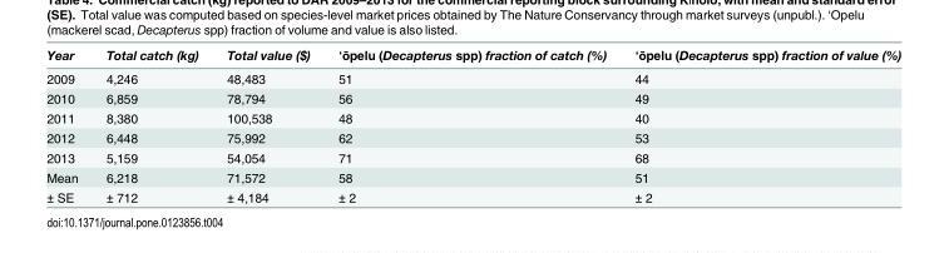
<table><thead><tr><td>Year</td><td>Total catch (kg)</td><td>Total value ($)</td><td>‘ōpelu (Decapterus spp) fraction of catch (%)</td><td>‘ōpelu (Decapterus spp) fraction of value (%)</td></tr></thead><tbody><tr><td>2009</td><td>4,246</td><td>48,483</td><td>51</td><td>44</td></tr><tr><td>2010</td><td>6,859</td><td>78,794</td><td>56</td><td>49</td></tr><tr><td>2011</td><td>8,380</td><td>100,538</td><td>48</td><td>40</td></tr><tr><td>2012</td><td>6,448</td><td>75,992</td><td>62</td><td>53</td></tr><tr><td>2013</td><td>5,159</td><td>54,054</td><td>71</td><td>68</td></tr><tr><td>Mean</td><td>6,218</td><td>71,572</td><td>58</td><td>51</td></tr><tr><td>± SE</td><td>± 712</td><td>± 4,184</td><td>± 2</td><td>± 2</td></tr></tbody></table>